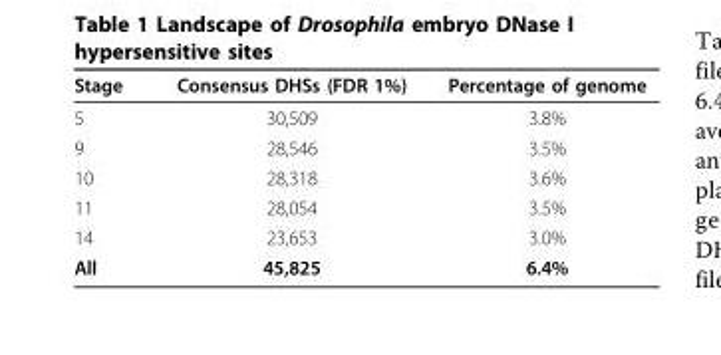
<table><thead><tr><td>Stage</td><td>Consensus DHSs (FDR 1%)</td><td>Percentage of genome</td></tr></thead><tbody><tr><td>5</td><td>30,509</td><td>3.8%</td></tr><tr><td>9</td><td>28,546</td><td>3.5%</td></tr><tr><td>10</td><td>28,318</td><td>3.6%</td></tr><tr><td>11</td><td>28,054</td><td>3.5%</td></tr><tr><td>14</td><td>23,653</td><td>3.0%</td></tr><tr><td>All</td><td>45,825</td><td>6.4%</td></tr></tbody></table>